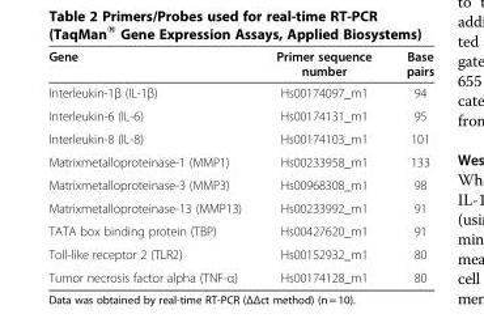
<table><thead><tr><td>Gene</td><td>Primer sequence number</td><td>Base pairs</td></tr></thead><tbody><tr><td>Interleukin-1β (IL-1β)</td><td>Hs00174097_m1</td><td>94</td></tr><tr><td>Interleukin-6 (IL-6)</td><td>Hs00174131_m1</td><td>95</td></tr><tr><td>Interleukin-8 (IL-8)</td><td>Hs00174103_m1</td><td>101</td></tr><tr><td>Matrixmetalloproteinase-1 (MMP1)</td><td>Hs00233958_m1</td><td>133</td></tr><tr><td>Matrixmetalloproteinase-3 (MMP3)</td><td>Hs00968308_m1</td><td>98</td></tr><tr><td>Matrixmetalloproteinase-13 (MMP13)</td><td>Hs00233992_m1</td><td>91</td></tr><tr><td>TATA box binding protein (TBP)</td><td>Hs00427620_m1</td><td>91</td></tr><tr><td>Toll-like receptor 2 (TLR2)</td><td>Hs00152932_m1</td><td>80</td></tr><tr><td>Tumor necrosis factor alpha (TNF-α)</td><td>Hs00174128_m1</td><td>80</td></tr></tbody></table>